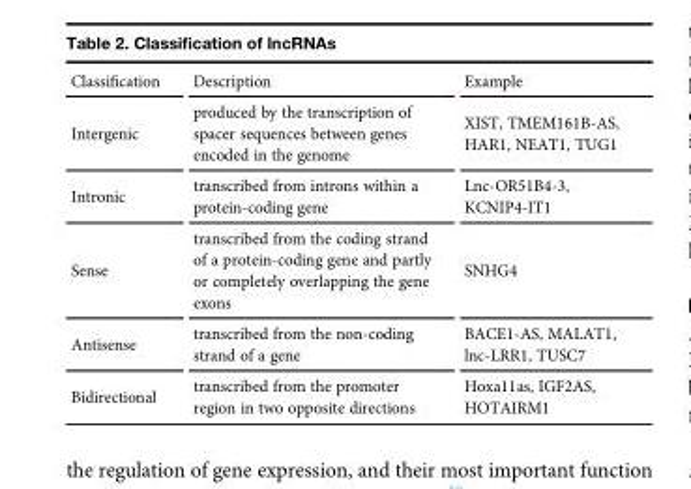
<table><thead><tr><td>Classification</td><td>Description</td><td>Example</td></tr></thead><tbody><tr><td>Intergenic</td><td>produced by the transcription of spacer sequences between genes encoded in the genome</td><td>XIST, TMEM161B-AS, HAR1, NEAT1, TUG1</td></tr><tr><td>Intronic</td><td>transcribed from introns within a protein-coding gene</td><td>Lnc-OR51B4-3, KCNIP4-IT1</td></tr><tr><td>Sense</td><td>transcribed from the coding strand of a protein-coding gene and partly or completely overlapping the gene exons</td><td>SNHG4</td></tr><tr><td>Antisense</td><td>transcribed from the non-coding strand of a gene</td><td>BACE1-AS, MALAT1, lnc-LRR1, TUSC7</td></tr><tr><td>Bidirectional</td><td>transcribed from the promoter region in two opposite directions</td><td>Hoxa11as, IGF2AS, HOTAIRM1</td></tr></tbody></table>